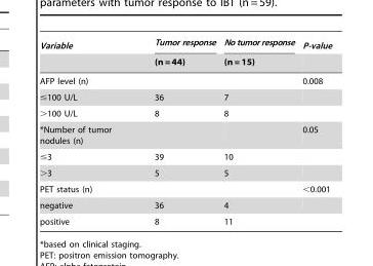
<table><thead><tr><td rowspan="2">Variable</td><td rowspan="2">Tumor response (n = 44)</td><td rowspan="2">No tumor response (n = 15)</td><td rowspan="2">P-value</td></tr><tr></tr></thead><tbody><tr><td>AFP level (n)</td><td></td><td></td><td>0.008</td></tr><tr><td>≤100 U/L</td><td>36</td><td>7</td><td></td></tr><tr><td>&gt;100 U/L</td><td>8</td><td>8</td><td></td></tr><tr><td>*Number of tumor nodules (n)</td><td></td><td></td><td>0.05</td></tr><tr><td>≤3</td><td>39</td><td>10</td><td></td></tr><tr><td>&gt;3</td><td>5</td><td>5</td><td></td></tr><tr><td>PET status (n)</td><td></td><td></td><td>&lt;0.001</td></tr><tr><td>negative</td><td>36</td><td>4</td><td></td></tr><tr><td>positive</td><td>8</td><td>11</td><td></td></tr></tbody></table>